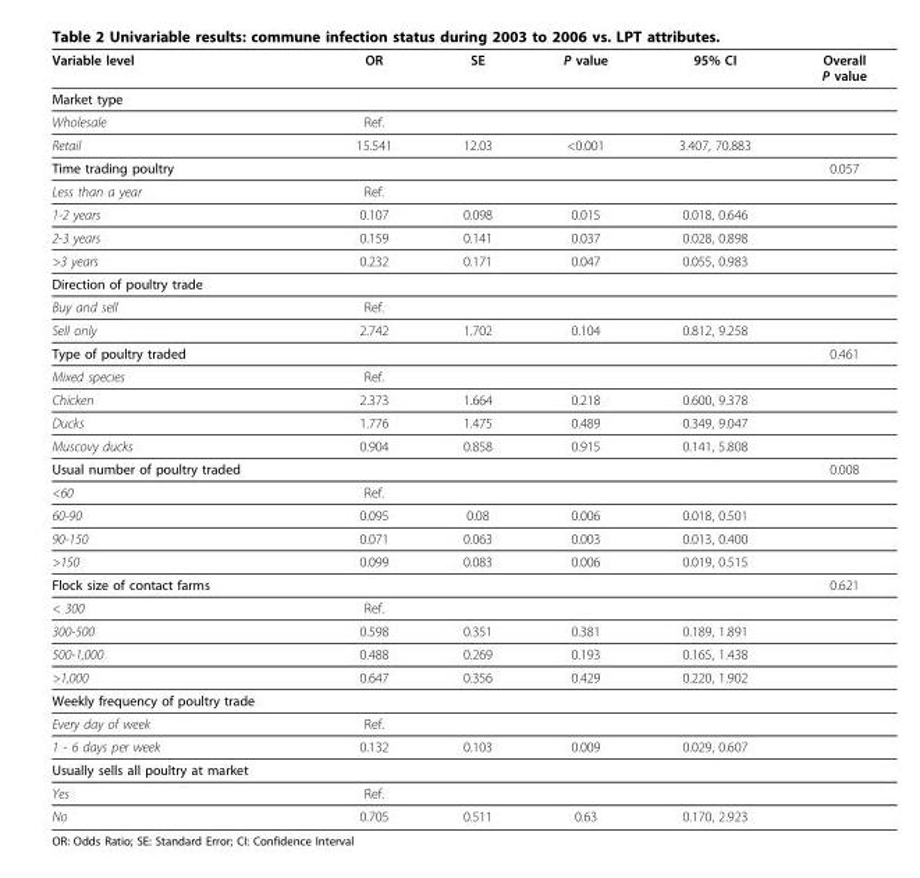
<table><thead><tr><td>Variable level</td><td>OR</td><td>SE</td><td>P value</td><td>95% CI</td><td>Overall P value</td></tr></thead><tbody><tr><td colspan="6">Market type</td></tr><tr><td>Wholesale</td><td>Ref.</td><td></td><td></td><td></td><td></td></tr><tr><td>Retail</td><td>15.541</td><td>12.03</td><td>&lt;0.001</td><td>3.407, 70.883</td><td></td></tr><tr><td>Time trading poultry</td><td></td><td></td><td></td><td></td><td>0.057</td></tr><tr><td>Less than a year</td><td>Ref.</td><td></td><td></td><td></td><td></td></tr><tr><td>1-2 years</td><td>0.107</td><td>0.098</td><td>0.015</td><td>0.018, 0.646</td><td></td></tr><tr><td>2-3 years</td><td>0.159</td><td>0.141</td><td>0.037</td><td>0.028, 0.898</td><td></td></tr><tr><td>&gt;3 years</td><td>0.232</td><td>0.171</td><td>0.047</td><td>0.055, 0.983</td><td></td></tr><tr><td colspan="6">Direction of poultry trade</td></tr><tr><td>Buy and sell</td><td>Ref.</td><td></td><td></td><td></td><td></td></tr><tr><td>Sell only</td><td>2.742</td><td>1.702</td><td>0.104</td><td>0.812, 9.258</td><td></td></tr><tr><td>Type of poultry traded</td><td></td><td></td><td></td><td></td><td>0.461</td></tr><tr><td>Mixed species</td><td>Ref.</td><td></td><td></td><td></td><td></td></tr><tr><td>Chicken</td><td>2.373</td><td>1.664</td><td>0.218</td><td>0.600, 9.378</td><td></td></tr><tr><td>Ducks</td><td>1.776</td><td>1.475</td><td>0.489</td><td>0.349, 9.047</td><td></td></tr><tr><td>Muscovy ducks</td><td>0.904</td><td>0.858</td><td>0.915</td><td>0.141, 5.808</td><td></td></tr><tr><td>Usual number of poultry traded</td><td></td><td></td><td></td><td></td><td>0.008</td></tr><tr><td>&lt;60</td><td>Ref.</td><td></td><td></td><td></td><td></td></tr><tr><td>60-90</td><td>0.095</td><td>0.08</td><td>0.006</td><td>0.018, 0.501</td><td></td></tr><tr><td>90-150</td><td>0.071</td><td>0.063</td><td>0.003</td><td>0.013, 0.400</td><td></td></tr><tr><td>&gt;150</td><td>0.099</td><td>0.083</td><td>0.006</td><td>0.019, 0.515</td><td></td></tr><tr><td>Flock size of contact farms</td><td></td><td></td><td></td><td></td><td>0.621</td></tr><tr><td>&lt; 300</td><td>Ref.</td><td></td><td></td><td></td><td></td></tr><tr><td>300-500</td><td>0.598</td><td>0.351</td><td>0.381</td><td>0.189, 1.891</td><td></td></tr><tr><td>500-1,000</td><td>0.488</td><td>0.269</td><td>0.193</td><td>0.165, 1.438</td><td></td></tr><tr><td>&gt;1,000</td><td>0.647</td><td>0.356</td><td>0.429</td><td>0.220, 1.902</td><td></td></tr><tr><td colspan="6">Weekly frequency of poultry trade</td></tr><tr><td>Every day of week</td><td>Ref.</td><td></td><td></td><td></td><td></td></tr><tr><td>1 - 6 days per week</td><td>0.132</td><td>0.103</td><td>0.009</td><td>0.029, 0.607</td><td></td></tr><tr><td colspan="6">Usually sells all poultry at market</td></tr><tr><td>Yes</td><td>Ref.</td><td></td><td></td><td></td><td></td></tr><tr><td>No</td><td>0.705</td><td>0.511</td><td>0.63</td><td>0.170, 2.923</td><td></td></tr></tbody></table>